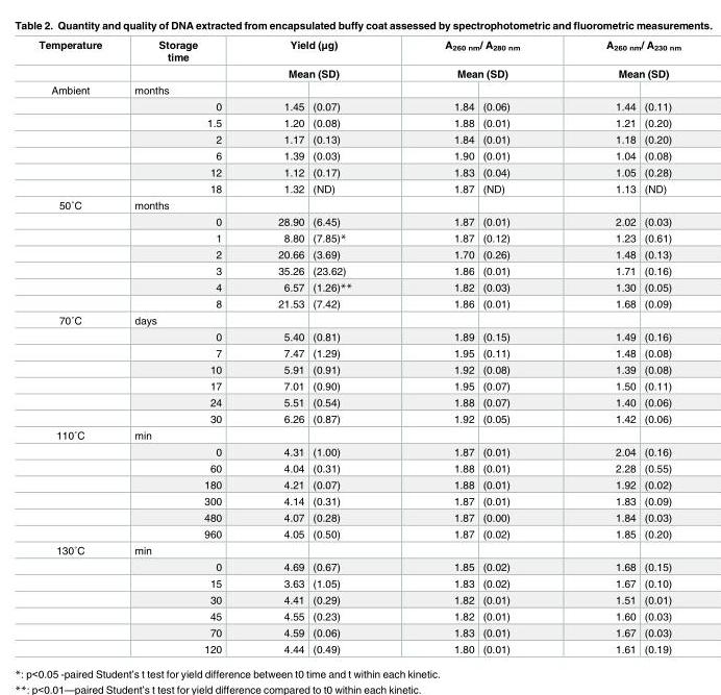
<table><thead><tr><td rowspan="3">Temperature Ambient</td><td rowspan="3">Storage time months</td><td rowspan="2" colspan="2">Yield (μg) Mean (SD)</td><td rowspan="2" colspan="2">A<sub>260 nm</sub>/ A<sub>280 nm</sub> Mean (SD)</td><td rowspan="2" colspan="2">A<sub>260 nm</sub>/ A<sub>230 nm</sub> Mean (SD)</td></tr><tr></tr><tr><td></td><td></td><td></td><td></td><td></td><td></td></tr></thead><tbody><tr><td></td><td>0</td><td>1.45</td><td>(0.07)</td><td>1.84</td><td>(0.06)</td><td>1.44</td><td>(0.11)</td></tr><tr><td></td><td>1.5</td><td>1.20</td><td>(0.08)</td><td>1.88</td><td>(0.01)</td><td>1.21</td><td>(0.20)</td></tr><tr><td></td><td>2</td><td>1.17</td><td>(0.13)</td><td>1.84</td><td>(0.01)</td><td>1.18</td><td>(0.20)</td></tr><tr><td></td><td>6</td><td>1.39</td><td>(0.03)</td><td>1.90</td><td>(0.01)</td><td>1.04</td><td>(0.08)</td></tr><tr><td></td><td>12</td><td>1.12</td><td>(0.17)</td><td>1.83</td><td>(0.04)</td><td>1.05</td><td>(0.28)</td></tr><tr><td></td><td>18</td><td>1.32</td><td>(ND)</td><td>1.87</td><td>(ND)</td><td>1.13</td><td>(ND)</td></tr><tr><td rowspan="7">50˚C</td><td>months</td><td></td><td></td><td></td><td></td><td></td><td></td></tr><tr><td>0</td><td>28.90</td><td>(6.45)</td><td>1.87</td><td>(0.01)</td><td>2.02</td><td>(0.03)</td></tr><tr><td>1</td><td>8.80</td><td>(7.85)*</td><td>1.87</td><td>(0.12)</td><td>1.23</td><td>(0.61)</td></tr><tr><td>2</td><td>20.66</td><td>(3.69)</td><td>1.70</td><td>(0.26)</td><td>1.48</td><td>(0.13)</td></tr><tr><td>3</td><td>35.26</td><td>(23.62)</td><td>1.86</td><td>(0.01)</td><td>1.71</td><td>(0.16)</td></tr><tr><td>4</td><td>6.57</td><td>(1.26)**</td><td>1.82</td><td>(0.03)</td><td>1.30</td><td>(0.05)</td></tr><tr><td>8</td><td>21.53</td><td>(7.42)</td><td>1.86</td><td>(0.01)</td><td>1.68</td><td>(0.09)</td></tr><tr><td rowspan="7">70˚C</td><td>days</td><td></td><td></td><td></td><td></td><td></td><td></td></tr><tr><td>0</td><td>5.40</td><td>(0.81)</td><td>1.89</td><td>(0.15)</td><td>1.49</td><td>(0.16)</td></tr><tr><td>7</td><td>7.47</td><td>(1.29)</td><td>1.95</td><td>(0.11)</td><td>1.48</td><td>(0.08)</td></tr><tr><td>10</td><td>5.91</td><td>(0.91)</td><td>1.92</td><td>(0.08)</td><td>1.39</td><td>(0.08)</td></tr><tr><td>17</td><td>7.01</td><td>(0.90)</td><td>1.95</td><td>(0.07)</td><td>1.50</td><td>(0.11)</td></tr><tr><td>24</td><td>5.51</td><td>(0.54)</td><td>1.88</td><td>(0.07)</td><td>1.40</td><td>(0.06)</td></tr><tr><td>30</td><td>6.26</td><td>(0.87)</td><td>1.92</td><td>(0.05)</td><td>1.42</td><td>(0.06)</td></tr><tr><td rowspan="7">110˚C</td><td>min</td><td></td><td></td><td></td><td></td><td></td><td></td></tr><tr><td>0</td><td>4.31</td><td>(1.00)</td><td>1.87</td><td>(0.01)</td><td>2.04</td><td>(0.16)</td></tr><tr><td>60</td><td>4.04</td><td>(0.31)</td><td>1.88</td><td>(0.01)</td><td>2.28</td><td>(0.55)</td></tr><tr><td>180</td><td>4.21</td><td>(0.07)</td><td>1.88</td><td>(0.01)</td><td>1.92</td><td>(0.02)</td></tr><tr><td>300</td><td>4.14</td><td>(0.31)</td><td>1.87</td><td>(0.01)</td><td>1.83</td><td>(0.09)</td></tr><tr><td>480</td><td>4.07</td><td>(0.28)</td><td>1.87</td><td>(0.00)</td><td>1.84</td><td>(0.03)</td></tr><tr><td>960</td><td>4.05</td><td>(0.50)</td><td>1.87</td><td>(0.02)</td><td>1.85</td><td>(0.20)</td></tr><tr><td rowspan="7">130˚C</td><td>min</td><td></td><td></td><td></td><td></td><td></td><td></td></tr><tr><td>0</td><td>4.69</td><td>(0.67)</td><td>1.85</td><td>(0.02)</td><td>1.68</td><td>(0.15)</td></tr><tr><td>15</td><td>3.63</td><td>(1.05)</td><td>1.83</td><td>(0.02)</td><td>1.67</td><td>(0.10)</td></tr><tr><td>30</td><td>4.41</td><td>(0.29)</td><td>1.82</td><td>(0.01)</td><td>1.51</td><td>(0.01)</td></tr><tr><td>45</td><td>4.55</td><td>(0.23)</td><td>1.82</td><td>(0.01)</td><td>1.60</td><td>(0.03)</td></tr><tr><td>70</td><td>4.59</td><td>(0.06)</td><td>1.83</td><td>(0.01)</td><td>1.67</td><td>(0.03)</td></tr><tr><td>120</td><td>4.44</td><td>(0.49)</td><td>1.80</td><td>(0.01)</td><td>1.61</td><td>(0.19)</td></tr></tbody></table>